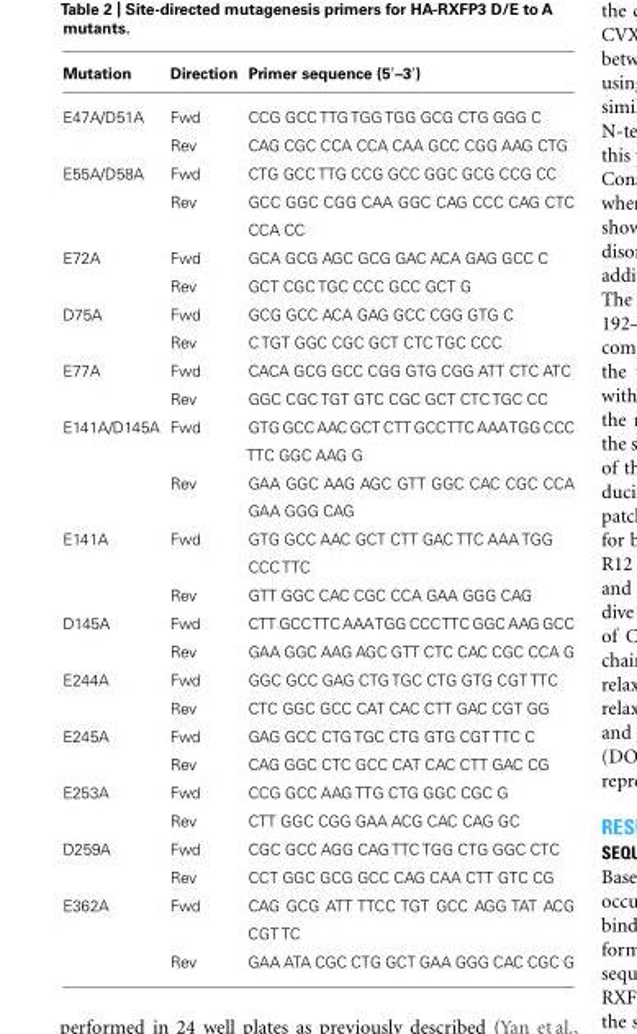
<table><thead><tr><td>Mutation</td><td>Direction</td><td>Primer sequence (5′–3′)</td></tr></thead><tbody><tr><td rowspan="2">E47A/D51A</td><td>Fwd</td><td>CCG GCC TTG TGG TGG GCG CTG GGG C</td></tr><tr><td>Rev</td><td>CAG CGC CCA CCA CAA GCC CGG AAG CTG</td></tr><tr><td rowspan="2">E55A/D58A</td><td>Fwd</td><td>CTG GCC TTG CCG GCC GGC GCG CCG CC</td></tr><tr><td>Rev</td><td>GCC GGC CGG CAA GGC CAG CCC CAG CTC CCA CC</td></tr><tr><td rowspan="2">E72A</td><td>Fwd</td><td>GCA GCG AGC GCG GAC ACA GAG GCC C</td></tr><tr><td>Rev</td><td>GCT CGC TGC CCC GCC GCT G</td></tr><tr><td rowspan="2">D75A</td><td>Fwd</td><td>GCG GCC ACA GAG GCC CGG GTG C</td></tr><tr><td>Rev</td><td>C TGT GGC CGC GCT CTC TGC CCC</td></tr><tr><td rowspan="2">E77A</td><td>Fwd</td><td>CACA GCG GCC CGG GTG CGG ATT CTC ATC</td></tr><tr><td>Rev</td><td>GGC CGC TGT GTC CGC GCT CTC TGC CC</td></tr><tr><td rowspan="2">E141A/D145A</td><td>Fwd</td><td>GTG GCCAAC GCT CTT GCCTTCAAATGG CCC TTC GGC AAG G</td></tr><tr><td>Rev</td><td>GAA GGC AAG AGC GTT GGC CAC CGC CCA GAA GGG CAG</td></tr><tr><td rowspan="2">E141A</td><td>Fwd</td><td>GTG GCC AAC GCT CTT GAC TTC AAA TGG CCC TTC</td></tr><tr><td>Rev</td><td>GTT GGC CAC CGC CCA GAA GGG CAG</td></tr><tr><td rowspan="2">D145A</td><td>Fwd</td><td>CTT GCCTTC AAATGG CCCTTC GGC AAG GCC</td></tr><tr><td>Rev</td><td>GAA GGC AAG AGC GTT CTC CAC CGC CCA G</td></tr><tr><td rowspan="2">E244A</td><td>Fwd</td><td>GGC GCC GAG CTG TGC CTG GTG CGT TTC</td></tr><tr><td>Rev</td><td>CTC GGC GCC CAT CAC CTT GAC CGT GG</td></tr><tr><td rowspan="2">E245A</td><td>Fwd</td><td>GAG GCC CTG TGC CTG GTG CGT TTC C</td></tr><tr><td>Rev</td><td>CAG GGC CTC GCC CAT CAC CTT GAC CG</td></tr><tr><td rowspan="2">E253A</td><td>Fwd</td><td>CCG GCC AAG TTG CTG GGC CGC G</td></tr><tr><td>Rev</td><td>CTT GGC CGG GAA ACG CAC CAG GC</td></tr><tr><td rowspan="2">D259A</td><td>Fwd</td><td>CGC GCC AGG CAG TTC TGG CTG GGC CTC</td></tr><tr><td>Rev</td><td>CCT GGC GCG GCC CAG CAA CTT GTC CG</td></tr><tr><td rowspan="2">E362A</td><td>Fwd</td><td>CAG GCG ATT TTCC TGT GCC AGG TAT ACG CGT TC</td></tr><tr><td>Rev</td><td>GAA ATA CGC CTG GCT GAA GGG CAC CGC G</td></tr></tbody></table>